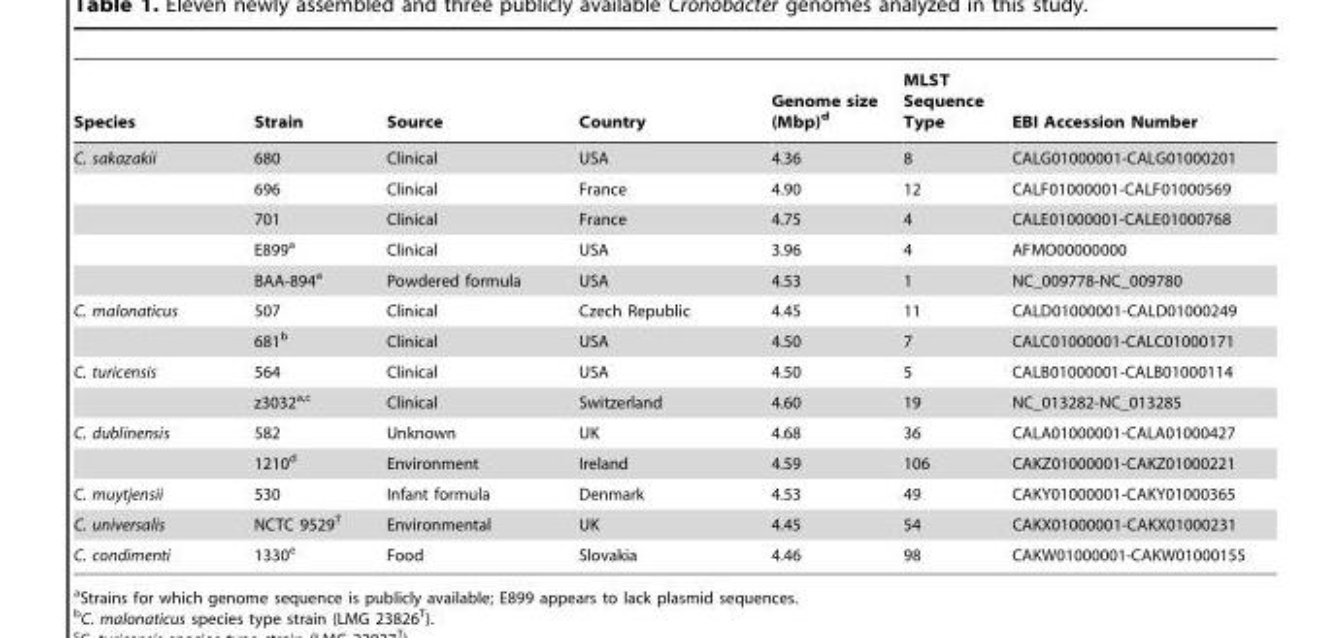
<table><thead><tr><td>Species</td><td>Strain</td><td>Source</td><td>Country</td><td>Genome size (Mbp)<sup>d</sup></td><td>MLST Sequence Type</td><td>EBI Accession Number</td></tr></thead><tbody><tr><td rowspan="5">C. sakazakii</td><td>680</td><td>Clinical</td><td>USA</td><td>4.36</td><td>8</td><td>CALG01000001-CALG01000201</td></tr><tr><td>696</td><td>Clinical</td><td>France</td><td>4.90</td><td>12</td><td>CALF01000001-CALF01000569</td></tr><tr><td>701</td><td>Clinical</td><td>France</td><td>4.75</td><td>4</td><td>CALE01000001-CALE01000768</td></tr><tr><td>E899<sup>a</sup></td><td>Clinical</td><td>USA</td><td>3.96</td><td>4</td><td>AFMO00000000</td></tr><tr><td>BAA-894<sup>a</sup></td><td>Powdered formula</td><td>USA</td><td>4.53</td><td>1</td><td>NC_009778-NC_009780</td></tr><tr><td rowspan="2">C. malonaticus</td><td>507</td><td>Clinical</td><td>Czech Republic</td><td>4.45</td><td>11</td><td>CALD01000001-CALD01000249</td></tr><tr><td>681<sup>b</sup></td><td>Clinical</td><td>USA</td><td>4.50</td><td>7</td><td>CALC01000001-CALC01000171</td></tr><tr><td rowspan="2">C. turicensis</td><td>564</td><td>Clinical</td><td>USA</td><td>4.50</td><td>5</td><td>CALB01000001-CALB01000114</td></tr><tr><td>z3032a,c</td><td>Clinical</td><td>Switzerland</td><td>4.60</td><td>19</td><td>NC_013282-NC_013285</td></tr><tr><td rowspan="2">C. dublinensis</td><td>582</td><td>Unknown</td><td>UK</td><td>4.68</td><td>36</td><td>CALA01000001-CALA01000427</td></tr><tr><td>1210<sup>d</sup></td><td>Environment</td><td>Ireland</td><td>4.59</td><td>106</td><td>CAKZ01000001-CAKZ01000221</td></tr><tr><td>C. muytjensii</td><td>530</td><td>Infant formula</td><td>Denmark</td><td>4.53</td><td>49</td><td>CAKY01000001-CAKY01000365</td></tr><tr><td>C. universalis</td><td>NCTC 9529<sup>T</sup></td><td>Environmental</td><td>UK</td><td>4.45</td><td>54</td><td>CAKX01000001-CAKX01000231</td></tr><tr><td>C. condimenti</td><td>1330<sup>e</sup></td><td>Food</td><td>Slovakia</td><td>4.46</td><td>98</td><td>CAKW01000001-CAKW01000155</td></tr></tbody></table>